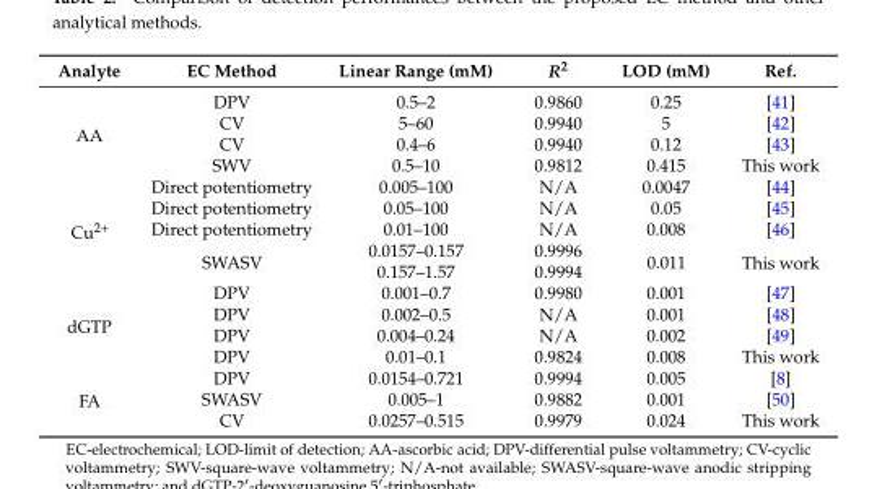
<table><thead><tr><td>Analyte</td><td>EC Method</td><td>Linear Range (mM)</td><td>R<sup>2</sup></td><td>LOD (mM)</td><td>Ref.</td></tr></thead><tbody><tr><td rowspan="4">AA</td><td>DPV</td><td>0.5–2</td><td>0.9860</td><td>0.25</td><td>[41]</td></tr><tr><td>CV</td><td>5–60</td><td>0.9940</td><td>5</td><td>[42]</td></tr><tr><td>CV</td><td>0.4–6</td><td>0.9940</td><td>0.12</td><td>[43]</td></tr><tr><td>SWV</td><td>0.5–10</td><td>0.9812</td><td>0.415</td><td>This work</td></tr><tr><td rowspan="5">Cu<sup>2+</sup></td><td>Direct potentiometry</td><td>0.005–100</td><td>N/A</td><td>0.0047</td><td>[44]</td></tr><tr><td>Direct potentiometry</td><td>0.05–100</td><td>N/A</td><td>0.05</td><td>[45]</td></tr><tr><td>Direct potentiometry</td><td>0.01–100</td><td>N/A</td><td>0.008</td><td>[46]</td></tr><tr><td rowspan="2">SWASV</td><td>0.0157–0.157</td><td>0.9996</td><td rowspan="2">0.011</td><td rowspan="2">This work</td></tr><tr><td>0.157–1.57</td><td>0.9994</td></tr><tr><td rowspan="4">dGTP</td><td>DPV</td><td>0.001–0.7</td><td>0.9980</td><td>0.001</td><td>[47]</td></tr><tr><td>DPV</td><td>0.002–0.5</td><td>N/A</td><td>0.001</td><td>[48]</td></tr><tr><td>DPV</td><td>0.004–0.24</td><td>N/A</td><td>0.002</td><td>[49]</td></tr><tr><td>DPV</td><td>0.01–0.1</td><td>0.9824</td><td>0.008</td><td>This work</td></tr><tr><td rowspan="3">FA</td><td>DPV</td><td>0.0154–0.721</td><td>0.9994</td><td>0.005</td><td>[8]</td></tr><tr><td>SWASV</td><td>0.005–1</td><td>0.9882</td><td>0.001</td><td>[50]</td></tr><tr><td>CV</td><td>0.0257–0.515</td><td>0.9979</td><td>0.024</td><td>This work</td></tr></tbody></table>